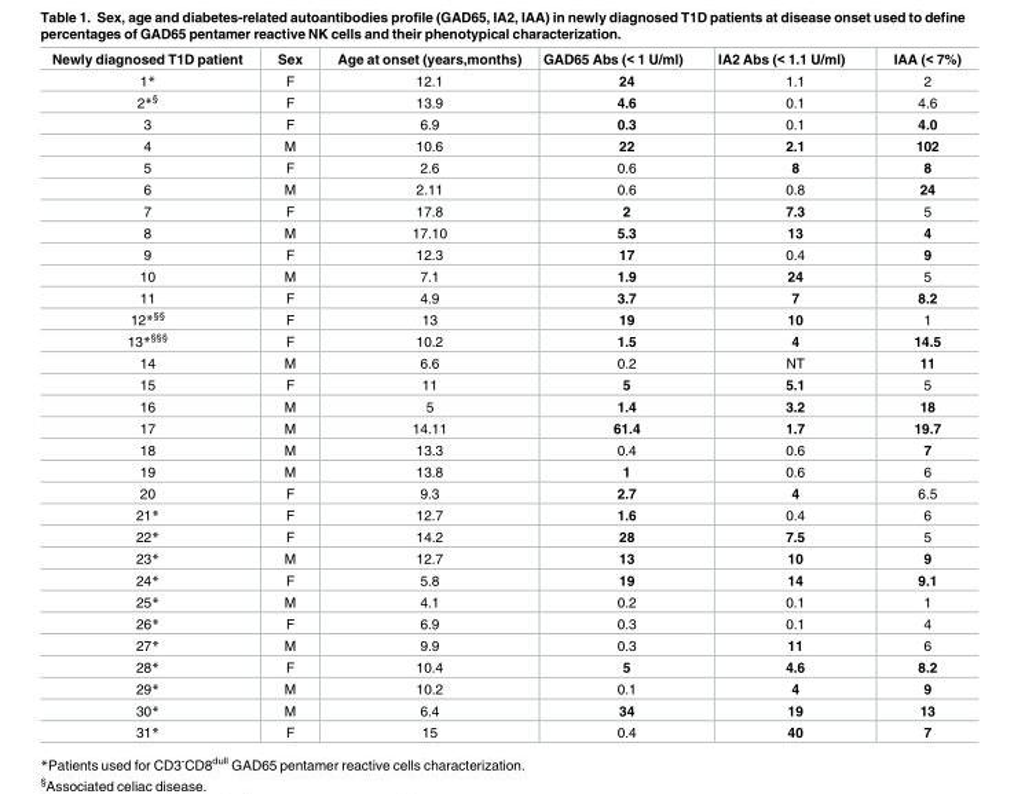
<table><thead><tr><td>Newly diagnosed T1D patient</td><td>Sex</td><td>Age at onset (years,months)</td><td>GAD65 Abs (&lt; 1 U/ml)</td><td>IA2 Abs (&lt; 1.1 U/ml)</td><td>IAA (&lt; 7%)</td></tr></thead><tbody><tr><td>1*</td><td>F</td><td>12.1</td><td>24</td><td>1.1</td><td>2</td></tr><tr><td>2*<sup>§</sup></td><td>F</td><td>13.9</td><td>4.6</td><td>0.1</td><td>4.6</td></tr><tr><td>3</td><td>F</td><td>6.9</td><td>0.3</td><td>0.1</td><td>4.0</td></tr><tr><td>4</td><td>M</td><td>10.6</td><td>22</td><td>2.1</td><td>102</td></tr><tr><td>5</td><td>F</td><td>2.6</td><td>0.6</td><td>8</td><td>8</td></tr><tr><td>6</td><td>M</td><td>2.11</td><td>0.6</td><td>0.8</td><td>24</td></tr><tr><td>7</td><td>F</td><td>17.8</td><td>2</td><td>7.3</td><td>5</td></tr><tr><td>8</td><td>M</td><td>17.10</td><td>5.3</td><td>13</td><td>4</td></tr><tr><td>9</td><td>F</td><td>12.3</td><td>17</td><td>0.4</td><td>9</td></tr><tr><td>10</td><td>M</td><td>7.1</td><td>1.9</td><td>24</td><td>5</td></tr><tr><td>11</td><td>F</td><td>4.9</td><td>3.7</td><td>7</td><td>8.2</td></tr><tr><td>12*<sup>§§</sup></td><td>F</td><td>13</td><td>19</td><td>10</td><td>1</td></tr><tr><td>13*<sup>§§§</sup></td><td>F</td><td>10.2</td><td>1.5</td><td>4</td><td>14.5</td></tr><tr><td>14</td><td>M</td><td>6.6</td><td>0.2</td><td>NT</td><td>11</td></tr><tr><td>15</td><td>F</td><td>11</td><td>5</td><td>5.1</td><td>5</td></tr><tr><td>16</td><td>M</td><td>5</td><td>1.4</td><td>3.2</td><td>18</td></tr><tr><td>17</td><td>M</td><td>14.11</td><td>61.4</td><td>1.7</td><td>19.7</td></tr><tr><td>18</td><td>M</td><td>13.3</td><td>0.4</td><td>0.6</td><td>7</td></tr><tr><td>19</td><td>M</td><td>13.8</td><td>1</td><td>0.6</td><td>6</td></tr><tr><td>20</td><td>F</td><td>9.3</td><td>2.7</td><td>4</td><td>6.5</td></tr><tr><td>21*</td><td>F</td><td>12.7</td><td>1.6</td><td>0.4</td><td>6</td></tr><tr><td>22*</td><td>F</td><td>14.2</td><td>28</td><td>7.5</td><td>5</td></tr><tr><td>23*</td><td>M</td><td>12.7</td><td>13</td><td>10</td><td>9</td></tr><tr><td>24*</td><td>F</td><td>5.8</td><td>19</td><td>14</td><td>9.1</td></tr><tr><td>25*</td><td>M</td><td>4.1</td><td>0.2</td><td>0.1</td><td>1</td></tr><tr><td>26*</td><td>F</td><td>6.9</td><td>0.3</td><td>0.1</td><td>4</td></tr><tr><td>27*</td><td>M</td><td>9.9</td><td>0.3</td><td>11</td><td>6</td></tr><tr><td>28*</td><td>F</td><td>10.4</td><td>5</td><td>4.6</td><td>8.2</td></tr><tr><td>29*</td><td>M</td><td>10.2</td><td>0.1</td><td>4</td><td>9</td></tr><tr><td>30*</td><td>M</td><td>6.4</td><td>34</td><td>19</td><td>13</td></tr><tr><td>31*</td><td>F</td><td>15</td><td>0.4</td><td>40</td><td>7</td></tr></tbody></table>